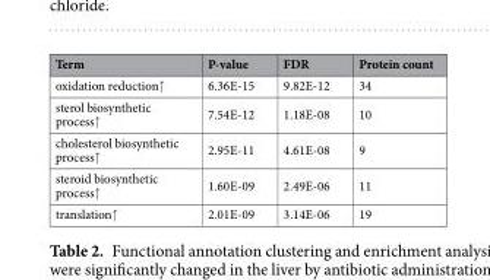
<table><thead><tr><td>Term</td><td>P-value</td><td>FDR</td><td>Protein count</td></tr></thead><tbody><tr><td>oxidation reduction↑</td><td>6.36E-15</td><td>9.82E-12</td><td>34</td></tr><tr><td>sterol biosynthetic process↑</td><td>7.54E-12</td><td>1.18E-08</td><td>10</td></tr><tr><td>cholesterol biosynthetic process↑</td><td>2.95E-11</td><td>4.61E-08</td><td>9</td></tr><tr><td>steroid biosynthetic process↑</td><td>1.60E-09</td><td>2.49E-06</td><td>11</td></tr><tr><td>translation↑</td><td>2.01E-09</td><td>3.14E-06</td><td>19</td></tr></tbody></table>